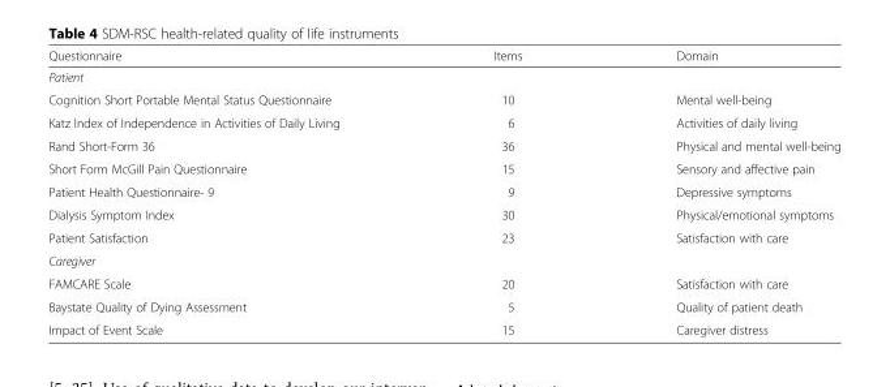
<table><thead><tr><td>Questionnaire</td><td>Items</td><td>Domain</td></tr></thead><tbody><tr><td colspan="3">Patient</td></tr><tr><td>Cognition Short Portable Mental Status Questionnaire</td><td>10</td><td>Mental well-being</td></tr><tr><td>Katz Index of Independence in Activities of Daily Living</td><td>6</td><td>Activities of daily living</td></tr><tr><td>Rand Short-Form 36</td><td>36</td><td>Physical and mental well-being</td></tr><tr><td>Short Form McGill Pain Questionnaire</td><td>15</td><td>Sensory and affective pain</td></tr><tr><td>Patient Health Questionnaire- 9</td><td>9</td><td>Depressive symptoms</td></tr><tr><td>Dialysis Symptom Index</td><td>30</td><td>Physical/emotional symptoms</td></tr><tr><td>Patient Satisfaction</td><td>23</td><td>Satisfaction with care</td></tr><tr><td colspan="3">Caregiver</td></tr><tr><td>FAMCARE Scale</td><td>20</td><td>Satisfaction with care</td></tr><tr><td>Baystate Quality of Dying Assessment</td><td>5</td><td>Quality of patient death</td></tr><tr><td>Impact of Event Scale</td><td>15</td><td>Caregiver distress</td></tr></tbody></table>